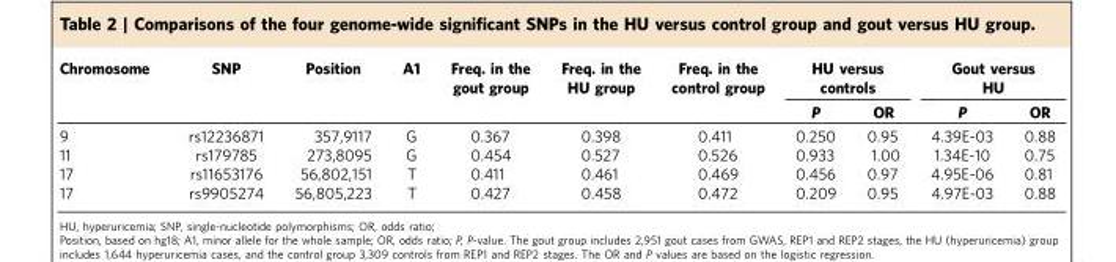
<table><thead><tr><td rowspan="2">Chromosome</td><td rowspan="2">SNP</td><td rowspan="2">Position</td><td rowspan="2">A1</td><td rowspan="2">Freq. in the gout group</td><td rowspan="2">Freq. in the HU group</td><td rowspan="2">Freq. in the control group</td><td colspan="2">HU versus controls</td><td colspan="2">Gout versus HU</td></tr><tr><td>P</td><td>OR</td><td>P</td><td>OR</td></tr></thead><tbody><tr><td>9</td><td>rs12236871</td><td>357,9117</td><td>G</td><td>0.367</td><td>0.398</td><td>0.411</td><td>0.250</td><td>0.95</td><td>4.39E-03</td><td>0.88</td></tr><tr><td>11</td><td>rs179785</td><td>273,8095</td><td>G</td><td>0.454</td><td>0.527</td><td>0.526</td><td>0.933</td><td>1.00</td><td>1.34E-10</td><td>0.75</td></tr><tr><td>17</td><td>rs11653176</td><td>56,802,151</td><td>T</td><td>0.411</td><td>0.461</td><td>0.469</td><td>0.456</td><td>0.97</td><td>4.95E-06</td><td>0.81</td></tr><tr><td>17</td><td>rs9905274</td><td>56,805,223</td><td>T</td><td>0.427</td><td>0.458</td><td>0.472</td><td>0.209</td><td>0.95</td><td>4.97E-03</td><td>0.88</td></tr></tbody></table>